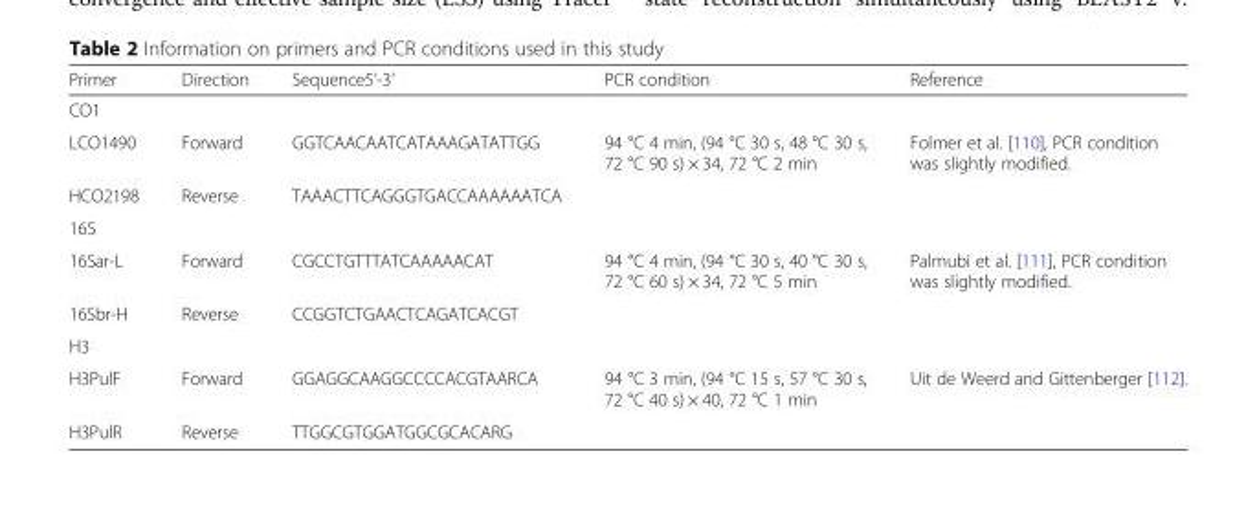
<table><thead><tr><td>Primer</td><td>Direction</td><td>Sequence5’-3’</td><td>PCR condition</td><td>Reference</td></tr></thead><tbody><tr><td colspan="5">CO1</td></tr><tr><td>LCO1490</td><td>Forward</td><td>GGTCAACAATCATAAAGATATTGG</td><td>94 °C 4 min, (94 °C 30 s, 48 °C 30 s, 72 °C 90 s) × 34, 72 °C 2 min</td><td>Folmer et al. [110], PCR condition was slightly modified.</td></tr><tr><td>HCO2198</td><td>Reverse</td><td>TAAACTTCAGGGTGACCAAAAAATCA</td><td></td><td></td></tr><tr><td colspan="5">16S</td></tr><tr><td>16Sar-L</td><td>Forward</td><td>CGCCTGTTTATCAAAAACAT</td><td>94 °C 4 min, (94 °C 30 s, 40 °C 30 s, 72 °C 60 s) × 34, 72 °C 5 min</td><td>Palmubi et al. [111], PCR condition was slightly modified.</td></tr><tr><td>16Sbr-H</td><td>Reverse</td><td>CCGGTCTGAACTCAGATCACGT</td><td></td><td></td></tr><tr><td colspan="5">H3</td></tr><tr><td>H3PulF</td><td>Forward</td><td>GGAGGCAAGGCCCCACGTAARCA</td><td>94 °C 3 min, (94 °C 15 s, 57 °C 30 s, 72 °C 40 s) × 40, 72 °C 1 min</td><td>Uit de Weerd and Gittenberger [112].</td></tr><tr><td>H3PulR</td><td>Reverse</td><td>TTGGCGTGGATGGCGCACARG</td><td></td><td></td></tr></tbody></table>